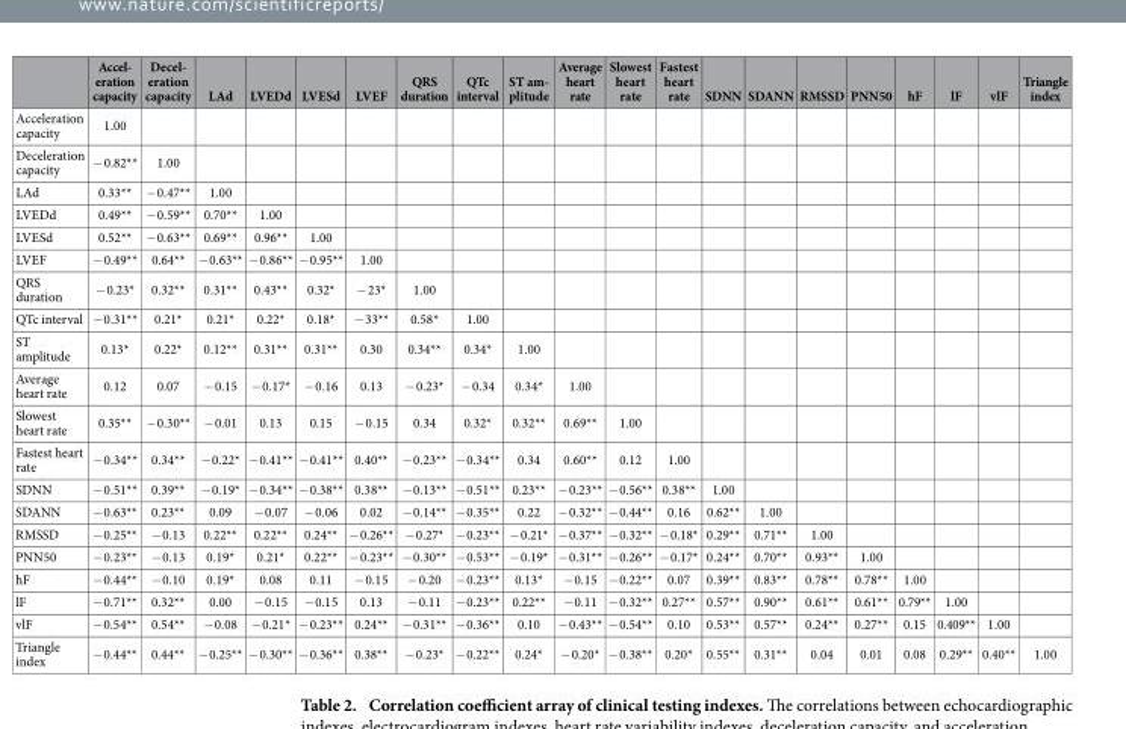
<table><thead><tr><td></td><td>Accel- eration capacity</td><td>Decel- eration capacity</td><td>LAd</td><td>LVEDd</td><td>LVESd</td><td>LVEF</td><td>QRS duration</td><td>QTc interval</td><td>ST am- plitude</td><td>Average heart rate</td><td>Slowest heart rate</td><td>Fastest heart rate</td><td>SDNN</td><td>SDANN</td><td>RMSSD</td><td>PNN50</td><td>hF</td><td>lF</td><td>vlF</td><td>Triangle index</td></tr></thead><tbody><tr><td>Acceleration capacity</td><td>1.00</td><td></td><td></td><td></td><td></td><td></td><td></td><td></td><td></td><td></td><td></td><td></td><td></td><td></td><td></td><td></td><td></td><td></td><td></td><td></td></tr><tr><td>Deceleration capacity</td><td>− 0.82**</td><td>1.00</td><td></td><td></td><td></td><td></td><td></td><td></td><td></td><td></td><td></td><td></td><td></td><td></td><td></td><td></td><td></td><td></td><td></td><td></td></tr><tr><td>LAd</td><td>0.33**</td><td>− 0.47**</td><td>1.00</td><td></td><td></td><td></td><td></td><td></td><td></td><td></td><td></td><td></td><td></td><td></td><td></td><td></td><td></td><td></td><td></td><td></td></tr><tr><td>LVEDd</td><td>0.49**</td><td>− 0.59**</td><td>0.70**</td><td>1.00</td><td></td><td></td><td></td><td></td><td></td><td></td><td></td><td></td><td></td><td></td><td></td><td></td><td></td><td></td><td></td><td></td></tr><tr><td>LVESd</td><td>0.52**</td><td>− 0.63**</td><td>0.69**</td><td>0.96**</td><td>1.00</td><td></td><td></td><td></td><td></td><td></td><td></td><td></td><td></td><td></td><td></td><td></td><td></td><td></td><td></td><td></td></tr><tr><td>LVEF</td><td>− 0.49**</td><td>0.64**</td><td>− 0.63**</td><td>− 0.86**</td><td>− 0.95**</td><td>1.00</td><td></td><td></td><td></td><td></td><td></td><td></td><td></td><td></td><td></td><td></td><td></td><td></td><td></td><td></td></tr><tr><td>QRS duration</td><td>− 0.23*</td><td>0.32**</td><td>0.31**</td><td>0.43**</td><td>0.32*</td><td>− 23*</td><td>1.00</td><td></td><td></td><td></td><td></td><td></td><td></td><td></td><td></td><td></td><td></td><td></td><td></td><td></td></tr><tr><td>QTc interval</td><td>− 0.31**</td><td>0.21*</td><td>0.21*</td><td>0.22*</td><td>0.18*</td><td>− 33**</td><td>0.58*</td><td>1.00</td><td></td><td></td><td></td><td></td><td></td><td></td><td></td><td></td><td></td><td></td><td></td><td></td></tr><tr><td>ST amplitude</td><td>0.13*</td><td>0.22*</td><td>0.12**</td><td>0.31**</td><td>0.31**</td><td>0.30</td><td>0.34**</td><td>0.34*</td><td>1.00</td><td></td><td></td><td></td><td></td><td></td><td></td><td></td><td></td><td></td><td></td><td></td></tr><tr><td>Average heart rate</td><td>0.12</td><td>0.07</td><td>− 0.15</td><td>− 0.17*</td><td>− 0.16</td><td>0.13</td><td>− 0.23*</td><td>− 0.34</td><td>0.34*</td><td>1.00</td><td></td><td></td><td></td><td></td><td></td><td></td><td></td><td></td><td></td><td></td></tr><tr><td>Slowest heart rate</td><td>0.35**</td><td>− 0.30**</td><td>− 0.01</td><td>0.13</td><td>0.15</td><td>− 0.15</td><td>0.34</td><td>0.32*</td><td>0.32**</td><td>0.69**</td><td>1.00</td><td></td><td></td><td></td><td></td><td></td><td></td><td></td><td></td><td></td></tr><tr><td>Fastest heart rate</td><td>− 0.34**</td><td>0.34**</td><td>− 0.22*</td><td>− 0.41**</td><td>− 0.41**</td><td>0.40**</td><td>− 0.23**</td><td>− 0.34**</td><td>0.34</td><td>0.60**</td><td>0.12</td><td>1.00</td><td></td><td></td><td></td><td></td><td></td><td></td><td></td><td></td></tr><tr><td>SDNN</td><td>− 0.51**</td><td>0.39**</td><td>− 0.19*</td><td>− 0.34**</td><td>− 0.38**</td><td>0.38**</td><td>− 0.13**</td><td>− 0.51**</td><td>0.23**</td><td>− 0.23**</td><td>− 0.56**</td><td>0.38**</td><td>1.00</td><td></td><td></td><td></td><td></td><td></td><td></td><td></td></tr><tr><td>SDANN</td><td>− 0.63**</td><td>0.23**</td><td>0.09</td><td>− 0.07</td><td>− 0.06</td><td>0.02</td><td>− 0.14**</td><td>− 0.35**</td><td>0.22</td><td>− 0.32**</td><td>− 0.44**</td><td>0.16</td><td>0.62**</td><td>1.00</td><td></td><td></td><td></td><td></td><td></td><td></td></tr><tr><td>RMSSD</td><td>− 0.25**</td><td>− 0.13</td><td>0.22**</td><td>0.22**</td><td>0.24**</td><td>− 0.26**</td><td>− 0.27*</td><td>− 0.23**</td><td>− 0.21*</td><td>− 0.37**</td><td>− 0.32**</td><td>− 0.18*</td><td>0.29**</td><td>0.71**</td><td>1.00</td><td></td><td></td><td></td><td></td><td></td></tr><tr><td>PNN50</td><td>− 0.23**</td><td>− 0.13</td><td>0.19*</td><td>0.21*</td><td>0.22**</td><td>− 0.23**</td><td>− 0.30**</td><td>− 0.53**</td><td>− 0.19*</td><td>− 0.31**</td><td>− 0.26**</td><td>− 0.17*</td><td>0.24**</td><td>0.70**</td><td>0.93**</td><td>1.00</td><td></td><td></td><td></td><td></td></tr><tr><td>hF</td><td>− 0.44**</td><td>− 0.10</td><td>0.19*</td><td>0.08</td><td>0.11</td><td>− 0.15</td><td>− 0.20</td><td>− 0.23**</td><td>0.13*</td><td>− 0.15</td><td>− 0.22**</td><td>0.07</td><td>0.39**</td><td>0.83**</td><td>0.78**</td><td>0.78**</td><td>1.00</td><td></td><td></td><td></td></tr><tr><td>lF</td><td>− 0.71**</td><td>0.32**</td><td>0.00</td><td>− 0.15</td><td>− 0.15</td><td>0.13</td><td>− 0.11</td><td>− 0.23**</td><td>0.22**</td><td>− 0.11</td><td>− 0.32**</td><td>0.27**</td><td>0.57**</td><td>0.90**</td><td>0.61**</td><td>0.61**</td><td>0.79**</td><td>1.00</td><td></td><td></td></tr><tr><td>vlF</td><td>− 0.54**</td><td>0.54**</td><td>− 0.08</td><td>− 0.21*</td><td>− 0.23**</td><td>0.24**</td><td>− 0.31**</td><td>− 0.36**</td><td>0.10</td><td>− 0.43**</td><td>− 0.54**</td><td>0.10</td><td>0.53**</td><td>0.57**</td><td>0.24**</td><td>0.27**</td><td>0.15</td><td>0.409**</td><td>1.00</td><td></td></tr><tr><td>Triangle index</td><td>− 0.44**</td><td>0.44**</td><td>− 0.25**</td><td>− 0.30**</td><td>− 0.36**</td><td>0.38**</td><td>− 0.23*</td><td>− 0.22**</td><td>0.24*</td><td>− 0.20*</td><td>− 0.38**</td><td>0.20*</td><td>0.55**</td><td>0.31**</td><td>0.04</td><td>0.01</td><td>0.08</td><td>0.29**</td><td>0.40**</td><td>1.00</td></tr></tbody></table>